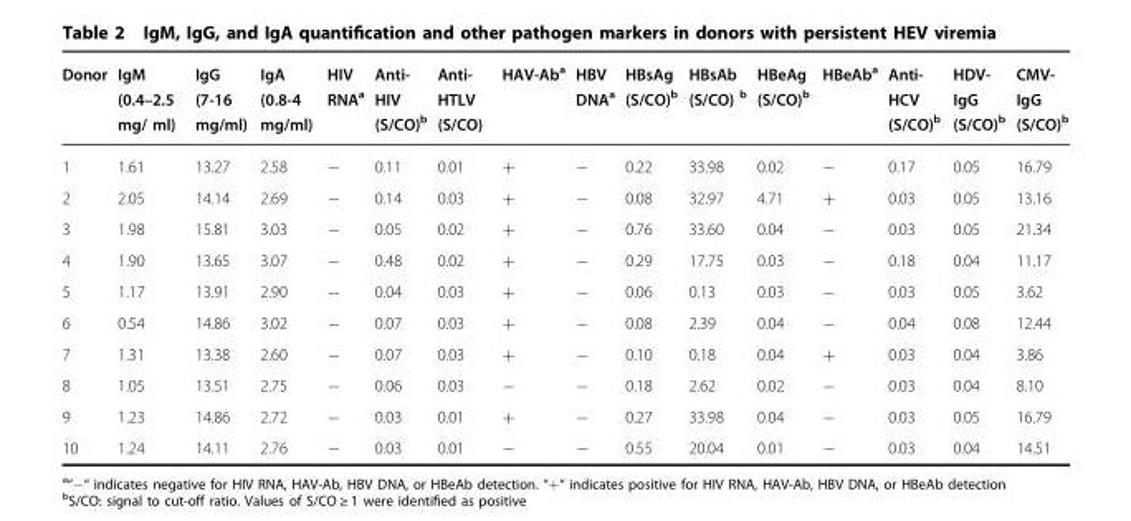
<table><thead><tr><td>Donor</td><td>IgM (0.4–2.5 mg/ ml)</td><td>IgG (7-16 mg/ml)</td><td>IgA (0.8-4 mg/ml)</td><td>HIV RNA<sup>a</sup></td><td>Anti- HIV (S/CO)<sup>b</sup></td><td>Anti- HTLV (S/CO)</td><td>HAV-Ab<sup>a</sup></td><td>HBV DNA<sup>a</sup></td><td>HBsAg (S/CO)<sup>b</sup></td><td>HBsAb (S/CO) <sup>b</sup></td><td>HBeAg (S/CO)<sup>b</sup></td><td>HBeAb<sup>a</sup></td><td>Anti- HCV (S/CO)<sup>b</sup></td><td>HDV- IgG (S/CO)<sup>b</sup></td><td>CMV- IgG (S/CO)<sup>b</sup></td></tr></thead><tbody><tr><td>1</td><td>1.61</td><td>13.27</td><td>2.58</td><td>−</td><td>0.11</td><td>0.01</td><td>+</td><td>−</td><td>0.22</td><td>33.98</td><td>0.02</td><td>−</td><td>0.17</td><td>0.05</td><td>16.79</td></tr><tr><td>2</td><td>2.05</td><td>14.14</td><td>2.69</td><td>−</td><td>0.14</td><td>0.03</td><td>+</td><td>−</td><td>0.08</td><td>32.97</td><td>4.71</td><td>+</td><td>0.03</td><td>0.05</td><td>13.16</td></tr><tr><td>3</td><td>1.98</td><td>15.81</td><td>3.03</td><td>−</td><td>0.05</td><td>0.02</td><td>+</td><td>−</td><td>0.76</td><td>33.60</td><td>0.04</td><td>−</td><td>0.03</td><td>0.05</td><td>21.34</td></tr><tr><td>4</td><td>1.90</td><td>13.65</td><td>3.07</td><td>−</td><td>0.48</td><td>0.02</td><td>+</td><td>−</td><td>0.29</td><td>17.75</td><td>0.03</td><td>−</td><td>0.18</td><td>0.04</td><td>11.17</td></tr><tr><td>5</td><td>1.17</td><td>13.91</td><td>2.90</td><td>−</td><td>0.04</td><td>0.03</td><td>+</td><td>−</td><td>0.06</td><td>0.13</td><td>0.03</td><td>−</td><td>0.03</td><td>0.05</td><td>3.62</td></tr><tr><td>6</td><td>0.54</td><td>14.86</td><td>3.02</td><td>−</td><td>0.07</td><td>0.03</td><td>+</td><td>−</td><td>0.08</td><td>2.39</td><td>0.04</td><td>−</td><td>0.04</td><td>0.08</td><td>12.44</td></tr><tr><td>7</td><td>1.31</td><td>13.38</td><td>2.60</td><td>−</td><td>0.07</td><td>0.03</td><td>+</td><td>−</td><td>0.10</td><td>0.18</td><td>0.04</td><td>+</td><td>0.03</td><td>0.04</td><td>3.86</td></tr><tr><td>8</td><td>1.05</td><td>13.51</td><td>2.75</td><td>−</td><td>0.06</td><td>0.03</td><td>−</td><td>−</td><td>0.18</td><td>2.62</td><td>0.02</td><td>−</td><td>0.03</td><td>0.04</td><td>8.10</td></tr><tr><td>9</td><td>1.23</td><td>14.86</td><td>2.72</td><td>−</td><td>0.03</td><td>0.01</td><td>+</td><td>−</td><td>0.27</td><td>33.98</td><td>0.04</td><td>−</td><td>0.03</td><td>0.05</td><td>16.79</td></tr><tr><td>10</td><td>1.24</td><td>14.11</td><td>2.76</td><td>−</td><td>0.03</td><td>0.01</td><td>−</td><td>−</td><td>0.55</td><td>20.04</td><td>0.01</td><td>−</td><td>0.03</td><td>0.04</td><td>14.51</td></tr></tbody></table>